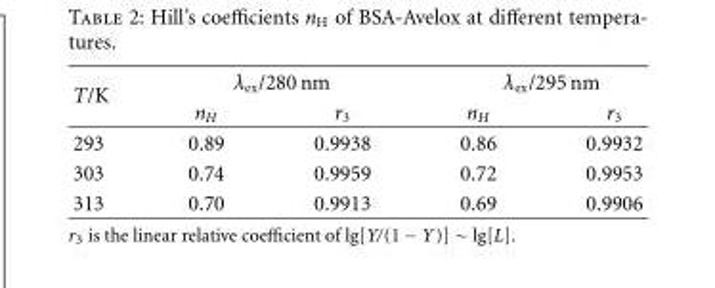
<table><thead><tr><td rowspan="2">T/K</td><td colspan="2">λ<sub>ex</sub>/280 nm</td><td colspan="2">λ<sub>ex</sub>/295 nm</td></tr><tr><td>n<sub>H</sub></td><td>r<sub>3</sub></td><td>n<sub>H</sub></td><td>r<sub>3</sub></td></tr></thead><tbody><tr><td>293</td><td>0.89</td><td>0.9938</td><td>0.86</td><td>0.9932</td></tr><tr><td>303</td><td>0.74</td><td>0.9959</td><td>0.72</td><td>0.9953</td></tr><tr><td>313</td><td>0.70</td><td>0.9913</td><td>0.69</td><td>0.9906</td></tr></tbody></table>